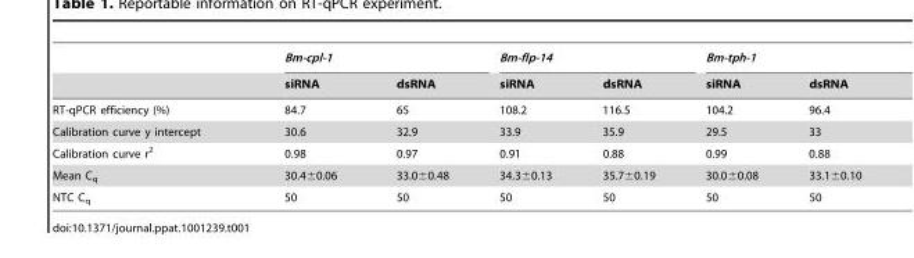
<table><thead><tr><td rowspan="2"></td><td colspan="2">Bm-cpl-1</td><td colspan="2">Bm-flp-14</td><td colspan="2">Bm-tph-1</td></tr><tr><td>siRNA</td><td>dsRNA</td><td>siRNA</td><td>dsRNA</td><td>siRNA</td><td>dsRNA</td></tr></thead><tbody><tr><td>RT-qPCR efficiency (%)</td><td>84.7</td><td>65</td><td>108.2</td><td>116.5</td><td>104.2</td><td>96.4</td></tr><tr><td>Calibration curve y intercept</td><td>30.6</td><td>32.9</td><td>33.9</td><td>35.9</td><td>29.5</td><td>33</td></tr><tr><td>Calibration curve r<sup>2</sup></td><td>0.98</td><td>0.97</td><td>0.91</td><td>0.88</td><td>0.99</td><td>0.88</td></tr><tr><td>Mean C<sub>q</sub></td><td>30.4±0.06</td><td>33.0±0.48</td><td>34.3±0.13</td><td>35.7±0.19</td><td>30.0±0.08</td><td>33.1±0.10</td></tr><tr><td>NTC C<sub>q</sub></td><td>50</td><td>50</td><td>50</td><td>50</td><td>50</td><td>50</td></tr></tbody></table>